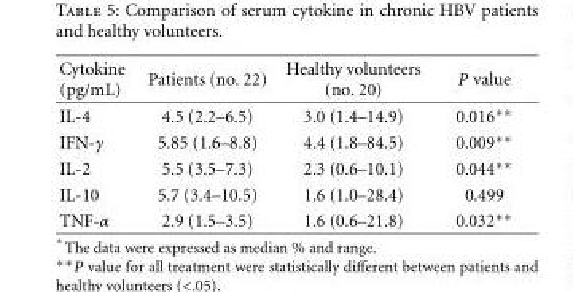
<table><thead><tr><td>Cytokine (pg/mL)</td><td>Patients (no. 22)</td><td>Healthy volunteers (no. 20)</td><td>P value</td></tr></thead><tbody><tr><td>IL-4</td><td>4.5 (2.2–6.5)</td><td>3.0 (1.4–14.9)</td><td>0.016∗∗</td></tr><tr><td>IFN-γ</td><td>5.85 (1.6–8.8)</td><td>4.4 (1.8–84.5)</td><td>0.009∗∗</td></tr><tr><td>IL-2</td><td>5.5 (3.5–7.3)</td><td>2.3 (0.6–10.1)</td><td>0.044∗∗</td></tr><tr><td>IL-10</td><td>5.7 (3.4–10.5)</td><td>1.6 (1.0–28.4)</td><td>0.499</td></tr><tr><td>TNF-α</td><td>2.9 (1.5–3.5)</td><td>1.6 (0.6–21.8)</td><td>0.032∗∗</td></tr></tbody></table>